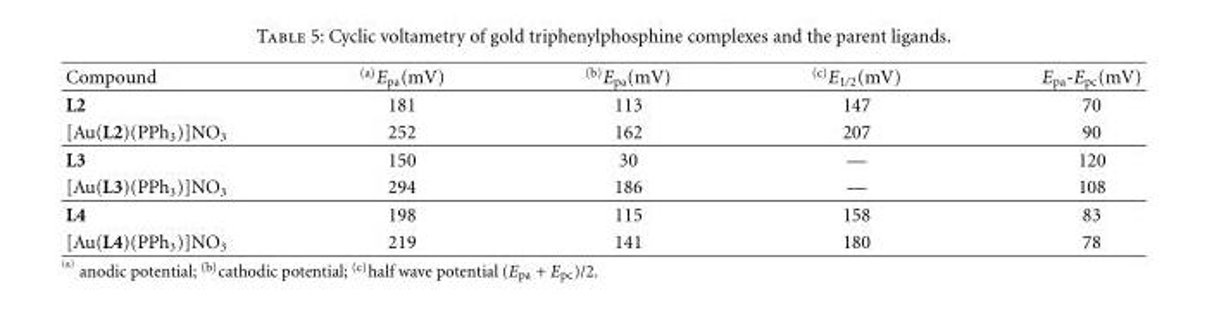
<table><thead><tr><td>Compound</td><td><sup>(a)</sup>E<sub>pa</sub>(mV)</td><td><sup>(b)</sup>E<sub>pa</sub>(mV)</td><td><sup>(c)</sup>E<sub>1/2</sub>(mV)</td><td>E<sub>pa</sub>-E<sub>pc</sub>(mV)</td></tr></thead><tbody><tr><td>L2</td><td>181</td><td>113</td><td>147</td><td>70</td></tr><tr><td>[Au(L2)(PPh<sub>3</sub>)]NO<sub>3</sub></td><td>252</td><td>162</td><td>207</td><td>90</td></tr><tr><td>L3</td><td>150</td><td>30</td><td>—</td><td>120</td></tr><tr><td>[Au(L3)(PPh<sub>3</sub>)]NO<sub>3</sub></td><td>294</td><td>186</td><td>—</td><td>108</td></tr><tr><td>L4</td><td>198</td><td>115</td><td>158</td><td>83</td></tr><tr><td>[Au(L4)(PPh<sub>3</sub>)]NO<sub>3</sub></td><td>219</td><td>141</td><td>180</td><td>78</td></tr></tbody></table>